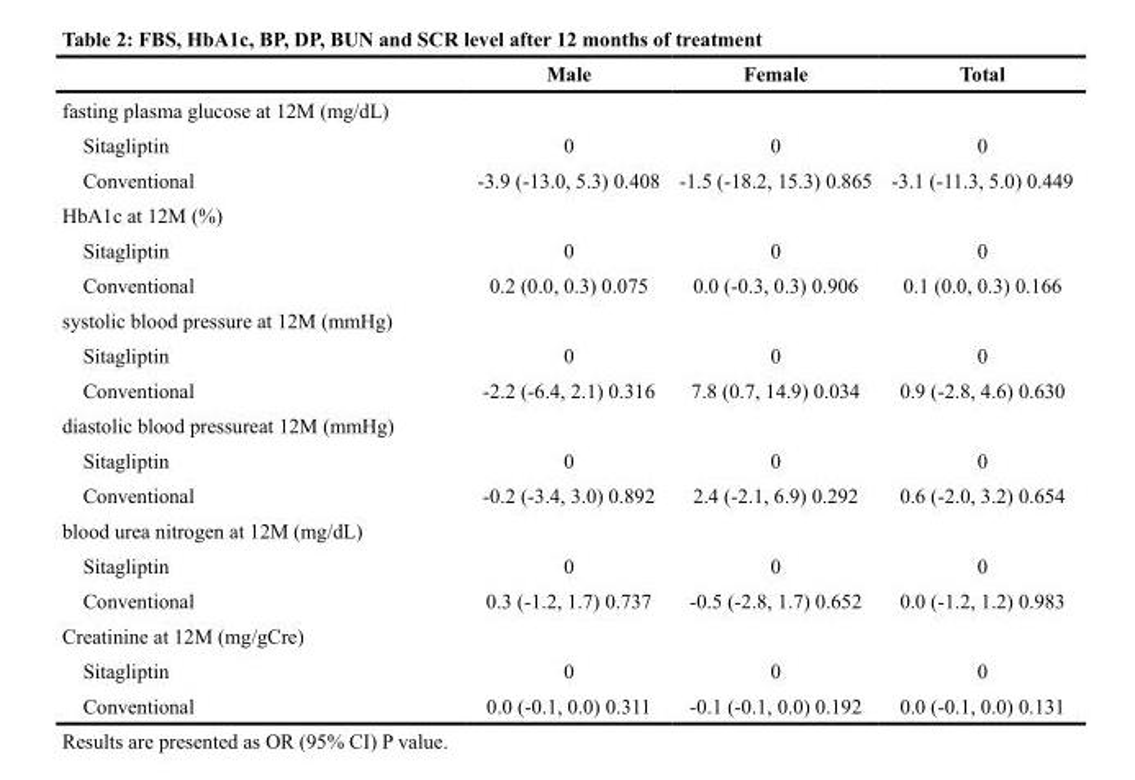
<table><thead><tr><td></td><td>Male</td><td>Female</td><td>Total</td></tr></thead><tbody><tr><td colspan="4">fasting plasma glucose at 12M (mg/dL)</td></tr><tr><td>Sitagliptin</td><td>0</td><td>0</td><td>0</td></tr><tr><td>Conventional</td><td>-3.9 (-13.0, 5.3) 0.408</td><td>-1.5 (-18.2, 15.3) 0.865</td><td>-3.1 (-11.3, 5.0) 0.449</td></tr><tr><td colspan="4">HbA1c at 12M (%)</td></tr><tr><td>Sitagliptin</td><td>0</td><td>0</td><td>0</td></tr><tr><td>Conventional</td><td>0.2 (0.0, 0.3) 0.075</td><td>0.0 (-0.3, 0.3) 0.906</td><td>0.1 (0.0, 0.3) 0.166</td></tr><tr><td colspan="4">systolic blood pressure at 12M (mmHg)</td></tr><tr><td>Sitagliptin</td><td>0</td><td>0</td><td>0</td></tr><tr><td>Conventional</td><td>-2.2 (-6.4, 2.1) 0.316</td><td>7.8 (0.7, 14.9) 0.034</td><td>0.9 (-2.8, 4.6) 0.630</td></tr><tr><td colspan="4">diastolic blood pressureat 12M (mmHg)</td></tr><tr><td>Sitagliptin</td><td>0</td><td>0</td><td>0</td></tr><tr><td>Conventional</td><td>-0.2 (-3.4, 3.0) 0.892</td><td>2.4 (-2.1, 6.9) 0.292</td><td>0.6 (-2.0, 3.2) 0.654</td></tr><tr><td colspan="4">blood urea nitrogen at 12M (mg/dL)</td></tr><tr><td>Sitagliptin</td><td>0</td><td>0</td><td>0</td></tr><tr><td>Conventional</td><td>0.3 (-1.2, 1.7) 0.737</td><td>-0.5 (-2.8, 1.7) 0.652</td><td>0.0 (-1.2, 1.2) 0.983</td></tr><tr><td colspan="4">Creatinine at 12M (mg/gCre)</td></tr><tr><td>Sitagliptin</td><td>0</td><td>0</td><td>0</td></tr><tr><td>Conventional</td><td>0.0 (-0.1, 0.0) 0.311</td><td>-0.1 (-0.1, 0.0) 0.192</td><td>0.0 (-0.1, 0.0) 0.131</td></tr></tbody></table>